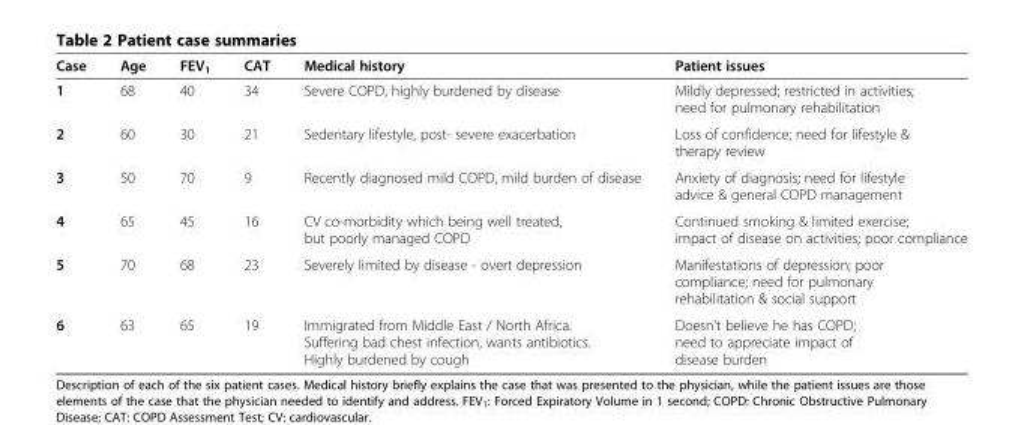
<table><thead><tr><td>Case</td><td>Age</td><td>FEV<sub>1</sub></td><td>CAT</td><td>Medical history</td><td>Patient issues</td></tr></thead><tbody><tr><td>1</td><td>68</td><td>40</td><td>34</td><td>Severe COPD, highly burdened by disease</td><td>Mildly depressed; restricted in activities; need for pulmonary rehabilitation</td></tr><tr><td>2</td><td>60</td><td>30</td><td>21</td><td>Sedentary lifestyle, post- severe exacerbation</td><td>Loss of confidence; need for lifestyle &amp; therapy review</td></tr><tr><td>3</td><td>50</td><td>70</td><td>9</td><td>Recently diagnosed mild COPD, mild burden of disease</td><td>Anxiety of diagnosis; need for lifestyle advice &amp; general COPD management</td></tr><tr><td>4</td><td>65</td><td>45</td><td>16</td><td>CV co-morbidity which being well treated, but poorly managed COPD</td><td>Continued smoking &amp; limited exercise; impact of disease on activities; poor compliance</td></tr><tr><td>5</td><td>70</td><td>68</td><td>23</td><td>Severely limited by disease - overt depression</td><td>Manifestations of depression; poor compliance; need for pulmonary rehabilitation &amp; social support</td></tr><tr><td>6</td><td>63</td><td>65</td><td>19</td><td>Immigrated from Middle East / North Africa. Suffering bad chest infection, wants antibiotics. Highly burdened by cough</td><td>Doesn&#x27;t believe he has COPD; need to appreciate impact of disease burden</td></tr></tbody></table>